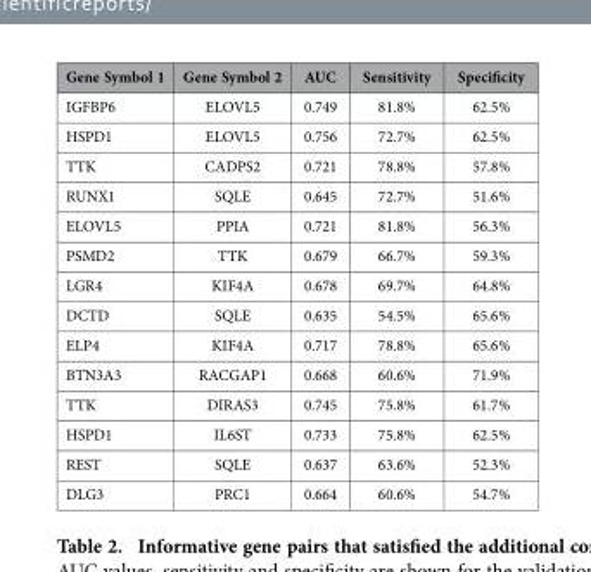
<table><thead><tr><td>Gene Symbol 1</td><td>Gene Symbol 2</td><td>AUC</td><td>Sensitivity</td><td>Specificity</td></tr></thead><tbody><tr><td>IGFBP6</td><td>ELOVL5</td><td>0.749</td><td>81.8%</td><td>62.5%</td></tr><tr><td>HSPD1</td><td>ELOVL5</td><td>0.756</td><td>72.7%</td><td>62.5%</td></tr><tr><td>TTK</td><td>CADPS2</td><td>0.721</td><td>78.8%</td><td>57.8%</td></tr><tr><td>RUNX1</td><td>SQLE</td><td>0.645</td><td>72.7%</td><td>51.6%</td></tr><tr><td>ELOVL5</td><td>PPIA</td><td>0.721</td><td>81.8%</td><td>56.3%</td></tr><tr><td>PSMD2</td><td>TTK</td><td>0.679</td><td>66.7%</td><td>59.3%</td></tr><tr><td>LGR4</td><td>KIF4A</td><td>0.678</td><td>69.7%</td><td>64.8%</td></tr><tr><td>DCTD</td><td>SQLE</td><td>0.635</td><td>54.5%</td><td>65.6%</td></tr><tr><td>ELP4</td><td>KIF4A</td><td>0.717</td><td>78.8%</td><td>65.6%</td></tr><tr><td>BTN3A3</td><td>RACGAP1</td><td>0.668</td><td>60.6%</td><td>71.9%</td></tr><tr><td>TTK</td><td>DIRAS3</td><td>0.745</td><td>75.8%</td><td>61.7%</td></tr><tr><td>HSPD1</td><td>IL6ST</td><td>0.733</td><td>75.8%</td><td>62.5%</td></tr><tr><td>REST</td><td>SQLE</td><td>0.637</td><td>63.6%</td><td>52.3%</td></tr><tr><td>DLG3</td><td>PRC1</td><td>0.664</td><td>60.6%</td><td>54.7%</td></tr></tbody></table>